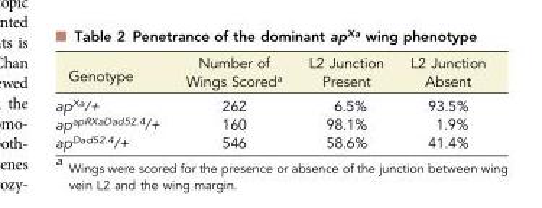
<table><thead><tr><td>Genotype</td><td>Number of Wings Scored<sup>a</sup></td><td>L2 Junction Present</td><td>L2 Junction Absent</td></tr></thead><tbody><tr><td>ap<sup>Xa</sup>/+</td><td>262</td><td>6.5%</td><td>93.5%</td></tr><tr><td>ap<sup>apRXaDad52.4</sup>/+</td><td>160</td><td>98.1%</td><td>1.9%</td></tr><tr><td>ap<sup>Dad52.4</sup>/+</td><td>546</td><td>58.6%</td><td>41.4%</td></tr></tbody></table>